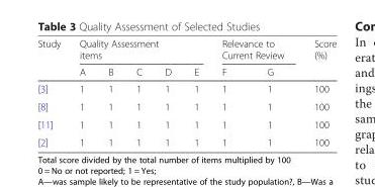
<table><thead><tr><td rowspan="2">Study</td><td colspan="5">Quality Assessment items</td><td colspan="2">Relevance to Current Review</td><td rowspan="2">Score (%)</td></tr><tr><td>A</td><td>B</td><td>C</td><td>D</td><td>E</td><td>F</td><td>G</td></tr></thead><tbody><tr><td>[3]</td><td>1</td><td>1</td><td>1</td><td>1</td><td>1</td><td>1</td><td>1</td><td>100</td></tr><tr><td>[8]</td><td>1</td><td>1</td><td>1</td><td>1</td><td>1</td><td>1</td><td>1</td><td>100</td></tr><tr><td>[11]</td><td>1</td><td>1</td><td>1</td><td>1</td><td>1</td><td>1</td><td>1</td><td>100</td></tr><tr><td>[2]</td><td>1</td><td>1</td><td>1</td><td>1</td><td>1</td><td>1</td><td>1</td><td>100</td></tr></tbody></table>